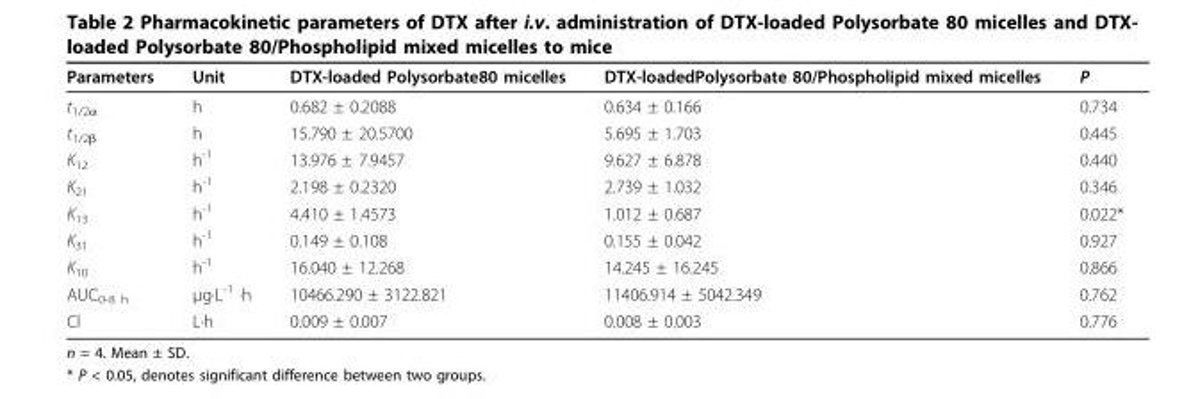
<table><thead><tr><td>Parameters</td><td>Unit</td><td>DTX-loaded Polysorbate80 micelles</td><td>DTX-loadedPolysorbate 80/Phospholipid mixed micelles</td><td>P</td></tr></thead><tbody><tr><td>t<sub>1/2α</sub></td><td>h</td><td>0.682 ± 0.2088</td><td>0.634 ± 0.166</td><td>0.734</td></tr><tr><td>t<sub>1/2β</sub></td><td>h</td><td>15.790 ± 20.5700</td><td>5.695 ± 1.703</td><td>0.445</td></tr><tr><td>K<sub>12</sub></td><td>h<sup>-1</sup></td><td>13.976 ± 7.9457</td><td>9.627 ± 6.878</td><td>0.440</td></tr><tr><td>K<sub>21</sub></td><td>h<sup>-1</sup></td><td>2.198 ± 0.2320</td><td>2.739 ± 1.032</td><td>0.346</td></tr><tr><td>K<sub>13</sub></td><td>h<sup>-1</sup></td><td>4.410 ± 1.4573</td><td>1.012 ± 0.687</td><td>0.022*</td></tr><tr><td>K<sub>31</sub></td><td>h<sup>-1</sup></td><td>0.149 ± 0.108</td><td>0.155 ± 0.042</td><td>0.927</td></tr><tr><td>K<sub>10</sub></td><td>h<sup>-1</sup></td><td>16.040 ± 12.268</td><td>14.245 ± 16.245</td><td>0.866</td></tr><tr><td>AUC<sub>0-8 h</sub></td><td>μg∙L<sup>-1</sup> ∙h</td><td>10466.290 ± 3122.821</td><td>11406.914 ± 5042.349</td><td>0.762</td></tr><tr><td>Cl</td><td>L∙h</td><td>0.009 ± 0.007</td><td>0.008 ± 0.003</td><td>0.776</td></tr></tbody></table>